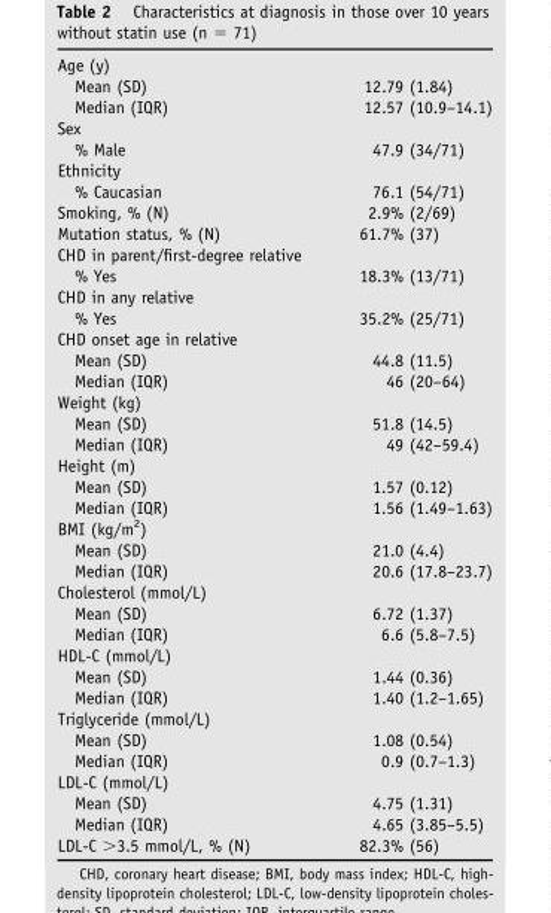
<table><tbody><tr><td colspan="2">Age (y)</td></tr><tr><td>Mean (SD)</td><td>12.79 (1.84)</td></tr><tr><td>Median (IQR)</td><td>12.57 (10.9–14.1)</td></tr><tr><td colspan="2">Sex</td></tr><tr><td>% Male</td><td>47.9 (34/71)</td></tr><tr><td colspan="2">Ethnicity</td></tr><tr><td>% Caucasian</td><td>76.1 (54/71)</td></tr><tr><td>Smoking, % (N)</td><td>2.9% (2/69)</td></tr><tr><td>Mutation status, % (N)</td><td>61.7% (37)</td></tr><tr><td colspan="2">CHD in parent/first-degree relative</td></tr><tr><td>% Yes</td><td>18.3% (13/71)</td></tr><tr><td colspan="2">CHD in any relative</td></tr><tr><td>% Yes</td><td>35.2% (25/71)</td></tr><tr><td colspan="2">CHD onset age in relative</td></tr><tr><td>Mean (SD)</td><td>44.8 (11.5)</td></tr><tr><td>Median (IQR)</td><td>46 (20–64)</td></tr><tr><td colspan="2">Weight (kg)</td></tr><tr><td>Mean (SD)</td><td>51.8 (14.5)</td></tr><tr><td>Median (IQR)</td><td>49 (42–59.4)</td></tr><tr><td colspan="2">Height (m)</td></tr><tr><td>Mean (SD)</td><td>1.57 (0.12)</td></tr><tr><td>Median (IQR)</td><td>1.56 (1.49–1.63)</td></tr><tr><td colspan="2">BMI (kg/m<sup>2</sup>)</td></tr><tr><td>Mean (SD)</td><td>21.0 (4.4)</td></tr><tr><td>Median (IQR)</td><td>20.6 (17.8–23.7)</td></tr><tr><td colspan="2">Cholesterol (mmol/L)</td></tr><tr><td>Mean (SD)</td><td>6.72 (1.37)</td></tr><tr><td>Median (IQR)</td><td>6.6 (5.8–7.5)</td></tr><tr><td colspan="2">HDL-C (mmol/L)</td></tr><tr><td>Mean (SD)</td><td>1.44 (0.36)</td></tr><tr><td>Median (IQR)</td><td>1.40 (1.2–1.65)</td></tr><tr><td colspan="2">Triglyceride (mmol/L)</td></tr><tr><td>Mean (SD)</td><td>1.08 (0.54)</td></tr><tr><td>Median (IQR)</td><td>0.9 (0.7–1.3)</td></tr><tr><td colspan="2">LDL-C (mmol/L)</td></tr><tr><td>Mean (SD)</td><td>4.75 (1.31)</td></tr><tr><td>Median (IQR)</td><td>4.65 (3.85–5.5)</td></tr><tr><td>LDL-C &gt;3.5 mmol/L, % (N)</td><td>82.3% (56)</td></tr></tbody></table>